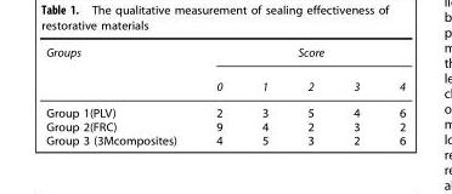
<table><thead><tr><td rowspan="2">Groups</td><td colspan="5">Score</td></tr><tr><td>0</td><td>1</td><td>2</td><td>3</td><td>4</td></tr></thead><tbody><tr><td>Group 1(PLV)</td><td>2</td><td>3</td><td>5</td><td>4</td><td>6</td></tr><tr><td>Group 2(FRC)</td><td>9</td><td>4</td><td>2</td><td>3</td><td>2</td></tr><tr><td>Group 3 (3Mcomposites)</td><td>4</td><td>5</td><td>3</td><td>2</td><td>6</td></tr></tbody></table>